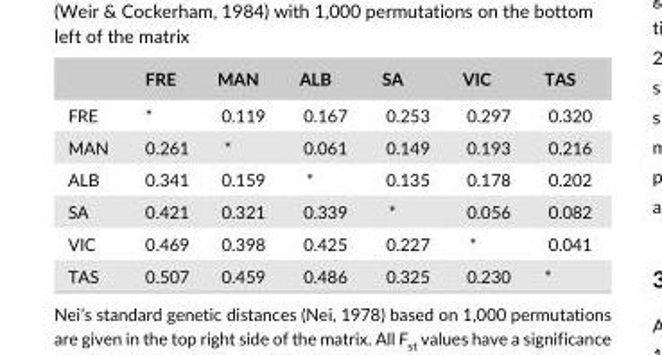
<table><thead><tr><td></td><td>FRE</td><td>MAN</td><td>ALB</td><td>SA</td><td>VIC</td><td>TAS</td></tr></thead><tbody><tr><td>FRE</td><td>*</td><td>0.119</td><td>0.167</td><td>0.253</td><td>0.297</td><td>0.320</td></tr><tr><td>MAN</td><td>0.261</td><td>*</td><td>0.061</td><td>0.149</td><td>0.193</td><td>0.216</td></tr><tr><td>ALB</td><td>0.341</td><td>0.159</td><td>*</td><td>0.135</td><td>0.178</td><td>0.202</td></tr><tr><td>SA</td><td>0.421</td><td>0.321</td><td>0.339</td><td>*</td><td>0.056</td><td>0.082</td></tr><tr><td>VIC</td><td>0.469</td><td>0.398</td><td>0.425</td><td>0.227</td><td>*</td><td>0.041</td></tr><tr><td>TAS</td><td>0.507</td><td>0.459</td><td>0.486</td><td>0.325</td><td>0.230</td><td>*</td></tr></tbody></table>